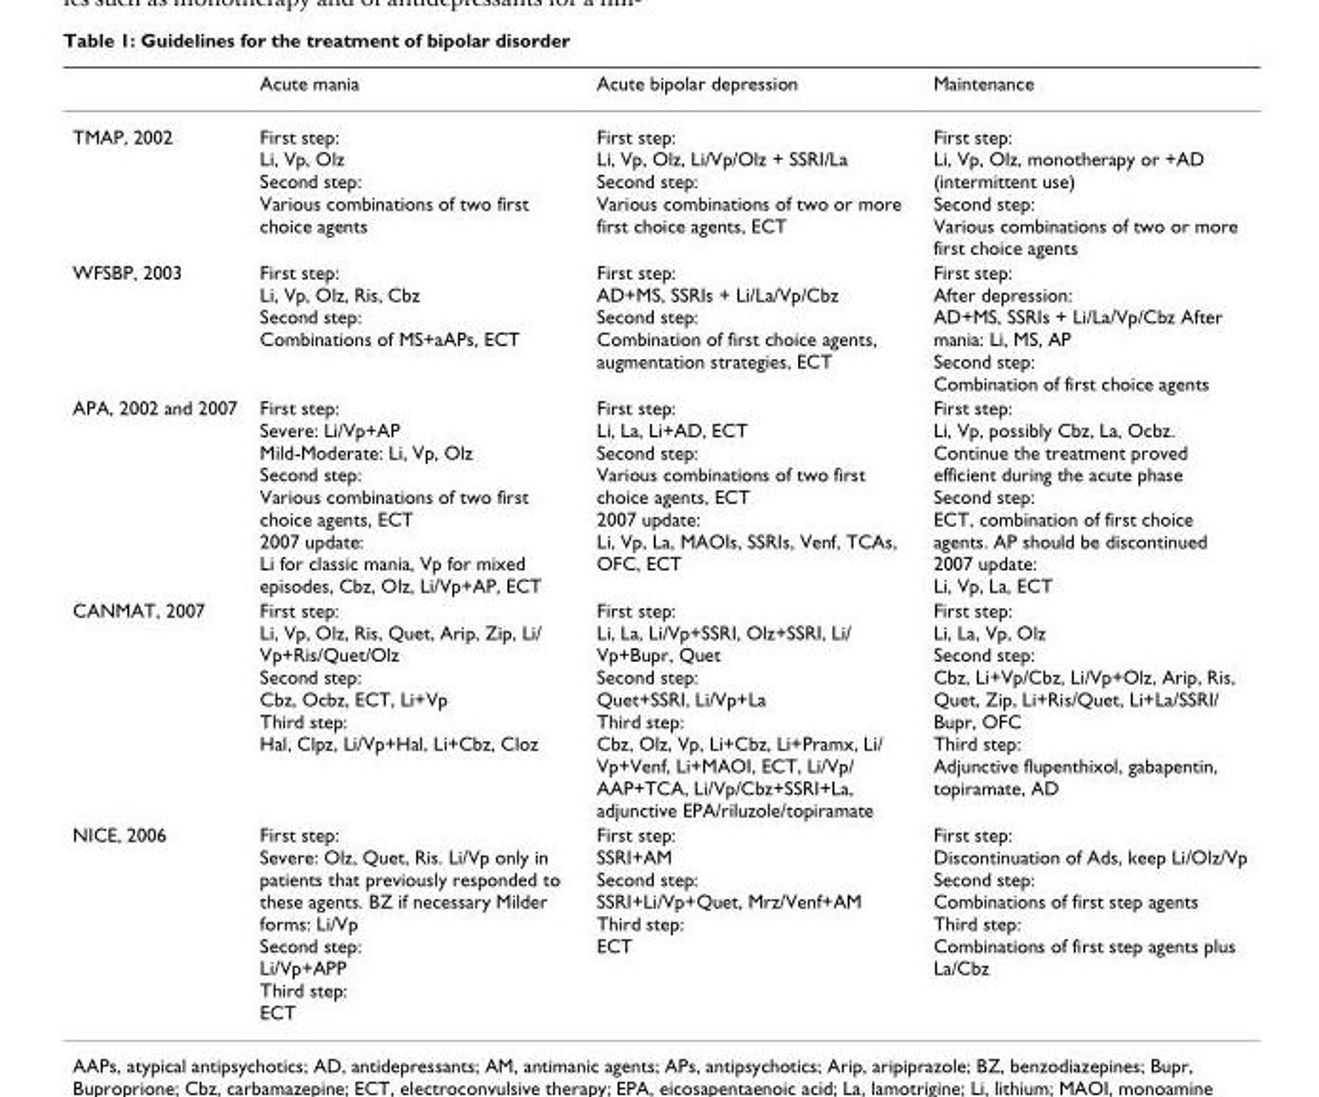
<table><thead><tr><td></td><td>Acute mania</td><td>Acute bipolar depression</td><td>Maintenance</td></tr></thead><tbody><tr><td>TMAP, 2002</td><td>First step: Li, Vp, Olz Second step: Various combinations of two first choice agents</td><td>First step: Li, Vp, Olz, Li/Vp/Olz + SSRI/La Second step: Various combinations of two or more first choice agents, ECT</td><td>First step: Li, Vp, Olz, monotherapy or +AD (intermittent use) Second step: Various combinations of two or more first choice agents</td></tr><tr><td>WFSBP, 2003</td><td>First step: Li, Vp, Olz, Ris, Cbz Second step: Combinations of MS+aAPs, ECT</td><td>First step: AD+MS, SSRIs + Li/La/Vp/Cbz Second step: Combination of first choice agents, augmentation strategies, ECT</td><td>First step: After depression: AD+MS, SSRIs + Li/La/Vp/Cbz After mania: Li, MS, AP Second step: Combination of first choice agents</td></tr><tr><td>APA, 2002 and 2007</td><td>First step: Severe: Li/Vp+AP Mild-Moderate: Li, Vp, Olz Second step: Various combinations of two first choice agents, ECT 2007 update: Li for classic mania, Vp for mixed episodes, Cbz, Olz, Li/Vp+AP, ECT</td><td>First step: Li, La, Li+AD, ECT Second step: Various combinations of two first choice agents, ECT 2007 update: Li, Vp, La, MAOIs, SSRIs, Venf, TCAs, OFC, ECT</td><td>First step: Li, Vp, possibly Cbz, La, Ocbz. Continue the treatment proved efficient during the acute phase Second step: ECT, combination of first choice agents. AP should be discontinued 2007 update: Li, Vp, La, ECT</td></tr><tr><td>CANMAT, 2007</td><td>First step: Li, Vp, Olz, Ris, Quet, Arip, Zip, Li/ Vp+Ris/Quet/Olz Second step: Cbz, Ocbz, ECT, Li+Vp Third step: Hal, Clpz, Li/Vp+Hal, Li+Cbz, Cloz</td><td>First step: Li, La, Li/Vp+SSRI, Olz+SSRI, Li/ Vp+Bupr, Quet Second step: Quet+SSRI, Li/Vp+La Third step: Cbz, Olz, Vp, Li+Cbz, Li+Pramx, Li/ Vp+Venf, Li+MAOI, ECT, Li/Vp/ AAP+TCA, Li/Vp/Cbz+SSRI+La, adjunctive EPA/riluzole/topiramate</td><td>First step: Li, La, Vp, Olz Second step: Cbz, Li+Vp/Cbz, Li/Vp+Olz, Arip, Ris, Quet, Zip, Li+Ris/Quet, Li+La/SSRI/ Bupr, OFC Third step: Adjunctive flupenthixol, gabapentin, topiramate, AD</td></tr><tr><td>NICE, 2006</td><td>First step: Severe: Olz, Quet, Ris. Li/Vp only in patients that previously responded to these agents. BZ if necessary Milder forms: Li/Vp Second step: Li/Vp+APP Third step: ECT</td><td>First step: SSRI+AM Second step: SSRI+Li/Vp+Quet, Mrz/Venf+AM Third step: ECT</td><td>First step: Discontinuation of Ads, keep Li/Olz/Vp Second step: Combinations of first step agents Third step: Combinations of first step agents plus La/Cbz</td></tr></tbody></table>